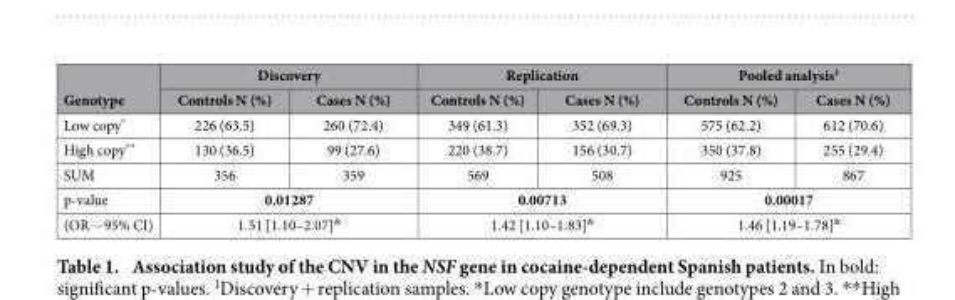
<table><thead><tr><td rowspan="2">Genotype</td><td colspan="2">Discovery</td><td colspan="2">Replication</td><td colspan="2">Pooled analysis<sup>1</sup></td></tr><tr><td>Controls N (%)</td><td>Cases N (%)</td><td>Controls N (%)</td><td>Cases N (%)</td><td>Controls N (%)</td><td>Cases N (%)</td></tr></thead><tbody><tr><td>Low copy*</td><td>226 (63.5)</td><td>260 (72.4)</td><td>349 (61.3)</td><td>352 (69.3)</td><td>575 (62.2)</td><td>612 (70.6)</td></tr><tr><td>High copy**</td><td>130 (36.5)</td><td>99 (27.6)</td><td>220 (38.7)</td><td>156 (30.7)</td><td>350 (37.8)</td><td>255 (29.4)</td></tr><tr><td>SUM</td><td>356</td><td>359</td><td>569</td><td>508</td><td>925</td><td>867</td></tr><tr><td>p-value</td><td colspan="2">0.01287</td><td colspan="2">0.00713</td><td colspan="2">0.00017</td></tr><tr><td>(OR −95% CI)</td><td colspan="2">1.51 [1.10–2.07]&amp;</td><td colspan="2">1.42 [1.10–1.83]&amp;</td><td colspan="2">1.46 [1.19–1.78]&amp;</td></tr></tbody></table>